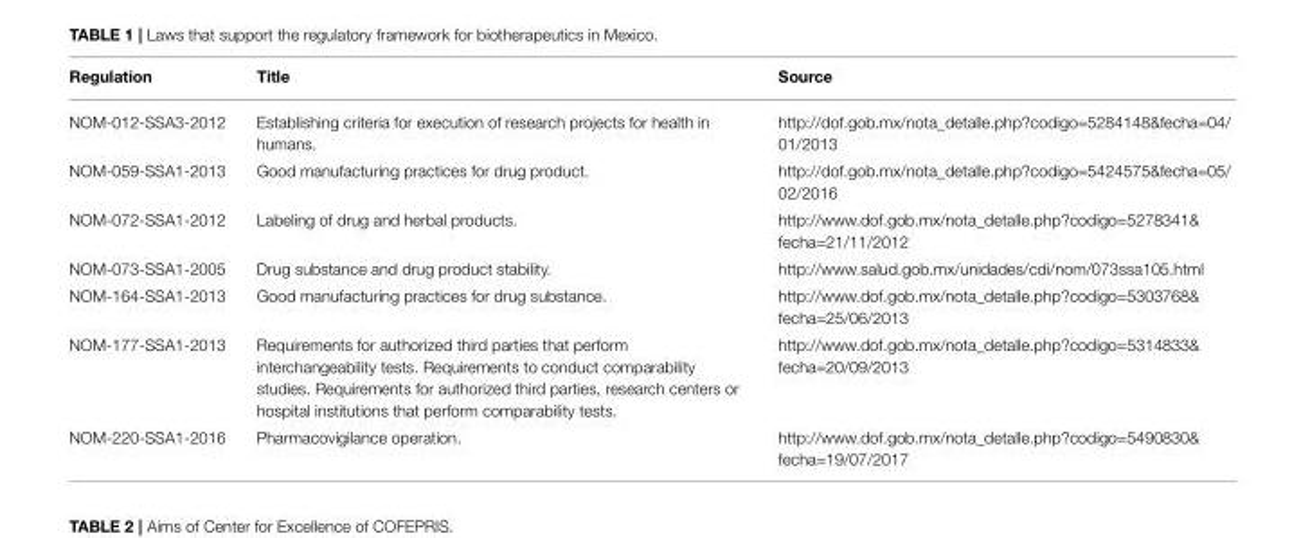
<table><thead><tr><td>Regulation</td><td>Title</td><td>Source</td></tr></thead><tbody><tr><td>NOM-012-SSA3-2012</td><td>Establishing criteria for execution of research projects for health in humans.</td><td>http://dof.gob.mx/nota_detalle.php?codigo=5284148&amp;fecha=04/ 01/2013</td></tr><tr><td>NOM-059-SSA1-2013</td><td>Good manufacturing practices for drug product.</td><td>http://dof.gob.mx/nota_detalle.php?codigo=5424575&amp;fecha=05/ 02/2016</td></tr><tr><td>NOM-072-SSA1-2012</td><td>Labeling of drug and herbal products.</td><td>http://www.dof.gob.mx/nota_detalle.php?codigo=5278341&amp; fecha=21/11/2012</td></tr><tr><td>NOM-073-SSA1-2005</td><td>Drug substance and drug product stability.</td><td>http://www.salud.gob.mx/unidades/cdi/nom/073ssa105.html</td></tr><tr><td>NOM-164-SSA1-2013</td><td>Good manufacturing practices for drug substance.</td><td>http://www.dof.gob.mx/nota_detalle.php?codigo=5303768&amp; fecha=25/06/2013</td></tr><tr><td>NOM-177-SSA1-2013</td><td>Requirements for authorized third parties that perform interchangeability tests. Requirements to conduct comparability studies. Requirements for authorized third parties, research centers or hospital institutions that perform comparability tests.</td><td>http://www.dof.gob.mx/nota_detalle.php?codigo=5314833&amp; fecha=20/09/2013</td></tr><tr><td>NOM-220-SSA1-2016</td><td>Pharmacovigilance operation.</td><td>http://www.dof.gob.mx/nota_detalle.php?codigo=5490830&amp; fecha=19/07/2017</td></tr></tbody></table>